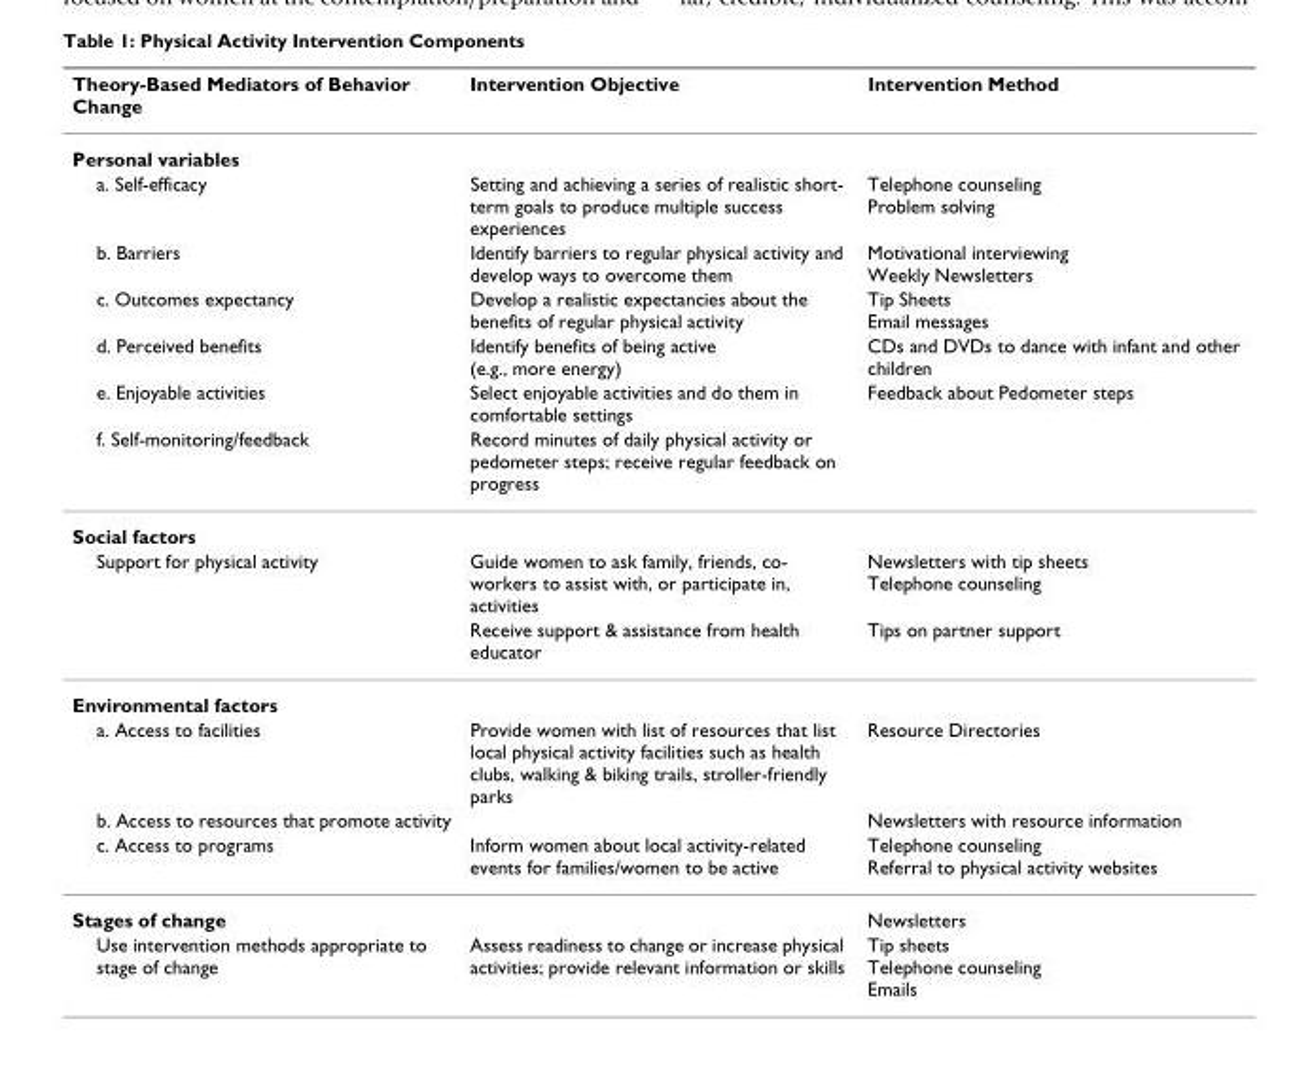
<table><thead><tr><td>Theory-Based Mediators of Behavior Change</td><td>Intervention Objective</td><td>Intervention Method</td></tr></thead><tbody><tr><td colspan="3">Personal variables</td></tr><tr><td>a. Self-efficacy</td><td>Setting and achieving a series of realistic short- term goals to produce multiple success experiences</td><td>Telephone counseling Problem solving</td></tr><tr><td>b. Barriers</td><td>Identify barriers to regular physical activity and develop ways to overcome them</td><td>Motivational interviewing Weekly Newsletters</td></tr><tr><td>c. Outcomes expectancy</td><td>Develop a realistic expectancies about the benefits of regular physical activity</td><td>Tip Sheets Email messages</td></tr><tr><td>d. Perceived benefits</td><td>Identify benefits of being active (e.g., more energy)</td><td>CDs and DVDs to dance with infant and other children</td></tr><tr><td>e. Enjoyable activities</td><td>Select enjoyable activities and do them in comfortable settings</td><td>Feedback about Pedometer steps</td></tr><tr><td>f. Self-monitoring/feedback</td><td>Record minutes of daily physical activity or pedometer steps; receive regular feedback on progress</td><td></td></tr><tr><td colspan="3">Social factors</td></tr><tr><td rowspan="2">Support for physical activity</td><td>Guide women to ask family, friends, co- workers to assist with, or participate in, activities</td><td>Newsletters with tip sheets Telephone counseling</td></tr><tr><td>Receive support &amp; assistance from health educator</td><td>Tips on partner support</td></tr><tr><td colspan="3">Environmental factors</td></tr><tr><td>a. Access to facilities</td><td>Provide women with list of resources that list local physical activity facilities such as health clubs, walking &amp; biking trails, stroller-friendly parks</td><td>Resource Directories</td></tr><tr><td>b. Access to resources that promote activity</td><td></td><td>Newsletters with resource information</td></tr><tr><td>c. Access to programs</td><td>Inform women about local activity-related events for families/women to be active</td><td>Telephone counseling Referral to physical activity websites</td></tr><tr><td>Stages of change</td><td></td><td>Newsletters</td></tr><tr><td>Use intervention methods appropriate to stage of change</td><td>Assess readiness to change or increase physical activities; provide relevant information or skills</td><td>Tip sheets Telephone counseling Emails</td></tr></tbody></table>